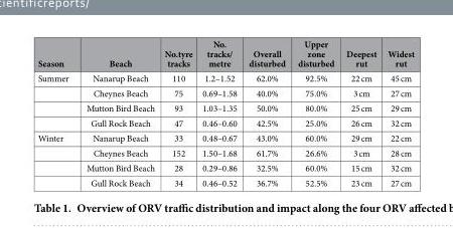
<table><thead><tr><td>Season</td><td>Beach</td><td>No.tyre tracks</td><td>No. tracks/ metre</td><td>Overall disturbed</td><td>Upper zone disturbed</td><td>Deepest rut</td><td>Widest rut</td></tr></thead><tbody><tr><td rowspan="4">Summer</td><td>Nanarup Beach</td><td>110</td><td>1.2–1.52</td><td>62.0%</td><td>92.5%</td><td>22 cm</td><td>45 cm</td></tr><tr><td>Cheynes Beach</td><td>75</td><td>0.69–1.58</td><td>40.0%</td><td>75.0%</td><td>3 cm</td><td>27 cm</td></tr><tr><td>Mutton Bird Beach</td><td>93</td><td>1.03–1.35</td><td>50.0%</td><td>80.0%</td><td>25 cm</td><td>29 cm</td></tr><tr><td>Gull Rock Beach</td><td>47</td><td>0.46–0.60</td><td>42.5%</td><td>25.0%</td><td>26 cm</td><td>32 cm</td></tr><tr><td rowspan="4">Winter</td><td>Nanarup Beach</td><td>33</td><td>0.48–0.67</td><td>43.0%</td><td>60.0%</td><td>29 cm</td><td>22 cm</td></tr><tr><td>Cheynes Beach</td><td>152</td><td>1.50–1.68</td><td>61.7%</td><td>26.6%</td><td>3 cm</td><td>28 cm</td></tr><tr><td>Mutton Bird Beach</td><td>28</td><td>0.29–0.86</td><td>32.5%</td><td>60.0%</td><td>15 cm</td><td>32 cm</td></tr><tr><td>Gull Rock Beach</td><td>34</td><td>0.46–0.52</td><td>36.7%</td><td>52.5%</td><td>23 cm</td><td>27 cm</td></tr></tbody></table>